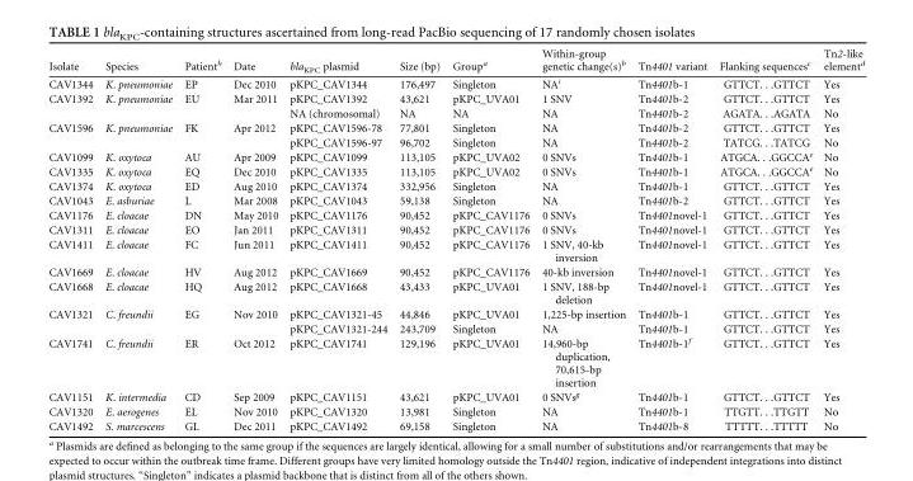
<table><thead><tr><td>Isolate</td><td>Species</td><td>Patient<sup>h</sup></td><td>Date</td><td>bla<sub>KPC</sub> plasmid</td><td>Size (bp)</td><td>Group<sup>a</sup></td><td>Within-group genetic change(s)<sup>b</sup></td><td>Tn4401 variant</td><td>Flanking sequences<sup>c</sup></td><td>Tn2-like element<sup>d</sup></td></tr></thead><tbody><tr><td>CAV1344</td><td>K. pneumoniae</td><td>EP</td><td>Dec 2010</td><td>pKPC_CAV1344</td><td>176,497</td><td>Singleton</td><td>NA<sup>i</sup></td><td>Tn4401b-1</td><td>GTTCT. . .GTTCT</td><td>Yes</td></tr><tr><td rowspan="2">CAV1392</td><td>K. pneumoniae</td><td>EU</td><td>Mar 2011</td><td>pKPC_CAV1392</td><td>43,621</td><td>pKPC_UVA01</td><td>1 SNV</td><td>Tn4401b-2</td><td>GTTCT. . .GTTCT</td><td>Yes</td></tr><tr><td></td><td></td><td></td><td>NA (chromosomal)</td><td>NA</td><td>NA</td><td>NA</td><td>Tn4401b-2</td><td>AGATA. . .AGATA</td><td>No</td></tr><tr><td rowspan="2">CAV1596</td><td>K. pneumoniae</td><td>FK</td><td>Apr 2012</td><td>pKPC_CAV1596-78</td><td>77,801</td><td>Singleton</td><td>NA</td><td>Tn4401b-2</td><td>GTTCT. . .GTTCT</td><td>Yes</td></tr><tr><td></td><td></td><td></td><td>pKPC_CAV1596-97</td><td>96,702</td><td>Singleton</td><td>NA</td><td>Tn4401b-2</td><td>TATCG. . .TATCG</td><td>No</td></tr><tr><td>CAV1099</td><td>K. oxytoca</td><td>AU</td><td>Apr 2009</td><td>pKPC_CAV1099</td><td>113,105</td><td>pKPC_UVA02</td><td>0 SNVs</td><td>Tn4401b-1</td><td>ATGCA. . .GGCCA<sup>e</sup></td><td>No</td></tr><tr><td>CAV1335</td><td>K. oxytoca</td><td>EQ</td><td>Dec 2010</td><td>pKPC_CAV1335</td><td>113,105</td><td>pKPC_UVA02</td><td>0 SNVs</td><td>Tn4401b-1</td><td>ATGCA. . .GGCCA<sup>e</sup></td><td>No</td></tr><tr><td>CAV1374</td><td>K. oxytoca</td><td>ED</td><td>Aug 2010</td><td>pKPC_CAV1374</td><td>332,956</td><td>Singleton</td><td>NA</td><td>Tn4401b-1</td><td>GTTCT. . .GTTCT</td><td>Yes</td></tr><tr><td>CAV1043</td><td>E. asburiae</td><td>L</td><td>Mar 2008</td><td>pKPC_CAV1043</td><td>59,138</td><td>Singleton</td><td>NA</td><td>Tn4401b-2</td><td>GTTCT. . .GTTCT</td><td>Yes</td></tr><tr><td>CAV1176</td><td>E. cloacae</td><td>DN</td><td>May 2010</td><td>pKPC_CAV1176</td><td>90,452</td><td>pKPC_CAV1176</td><td>0 SNVs</td><td>Tn4401novel-1</td><td>GTTCT. . .GTTCT</td><td>Yes</td></tr><tr><td>CAV1311</td><td>E. cloacae</td><td>EO</td><td>Jan 2011</td><td>pKPC_CAV1311</td><td>90,452</td><td>pKPC_CAV1176</td><td>0 SNVs</td><td>Tn4401novel-1</td><td>GTTCT. . .GTTCT</td><td>Yes</td></tr><tr><td>CAV1411</td><td>E. cloacae</td><td>FC</td><td>Jun 2011</td><td>pKPC_CAV1411</td><td>90,452</td><td>pKPC_CAV1176</td><td>1 SNV, 40-kb inversion</td><td>Tn4401novel-1</td><td>GTTCT. . .GTTCT</td><td>Yes</td></tr><tr><td>CAV1669</td><td>E. cloacae</td><td>HV</td><td>Aug 2012</td><td>pKPC_CAV1669</td><td>90,452</td><td>pKPC_CAV1176</td><td>40-kb inversion</td><td>Tn4401novel-1</td><td>GTTCT. . .GTTCT</td><td>Yes</td></tr><tr><td>CAV1668</td><td>E. cloacae</td><td>HQ</td><td>Aug 2012</td><td>pKPC_CAV1668</td><td>43,433</td><td>pKPC_UVA01</td><td>1 SNV, 188-bp deletion</td><td>Tn4401novel-1</td><td>GTTCT. . .GTTCT</td><td>Yes</td></tr><tr><td rowspan="2">CAV1321</td><td>C. freundii</td><td>EG</td><td>Nov 2010</td><td>pKPC_CAV1321-45</td><td>44,846</td><td>pKPC_UVA01</td><td>1,225-bp insertion</td><td>Tn4401b-1</td><td>GTTCT. . .GTTCT</td><td>Yes</td></tr><tr><td></td><td></td><td></td><td>pKPC_CAV1321-244</td><td>243,709</td><td>Singleton</td><td>NA</td><td>Tn4401b-1</td><td>GTTCT. . .GTTCT</td><td>Yes</td></tr><tr><td>CAV1741</td><td>C. freundii</td><td>ER</td><td>Oct 2012</td><td>pKPC_CAV1741</td><td>129,196</td><td>pKPC_UVA01</td><td>14,960-bp duplication, 70,615-bp insertion</td><td>Tn4401b-1<sup>f</sup></td><td>GTTCT. . .GTTCT</td><td>Yes</td></tr><tr><td>CAV1151</td><td>K. intermedia</td><td>CD</td><td>Sep 2009</td><td>pKPC_CAV1151</td><td>43,621</td><td>pKPC_UVA01</td><td>0 SNVs<sup>g</sup></td><td>Tn4401b-1</td><td>GTTCT. . .GTTCT</td><td>Yes</td></tr><tr><td>CAV1320</td><td>E. aerogenes</td><td>EL</td><td>Nov 2010</td><td>pKPC_CAV1320</td><td>13,981</td><td>Singleton</td><td>NA</td><td>Tn4401b-1</td><td>TTGTT. . .TTGTT</td><td>No</td></tr><tr><td>CAV1492</td><td>S. marcescens</td><td>GL</td><td>Dec 2011</td><td>pKPC_CAV1492</td><td>69,158</td><td>Singleton</td><td>NA</td><td>Tn4401b-8</td><td>TTTTT. . .TTTTT</td><td>No</td></tr></tbody></table>